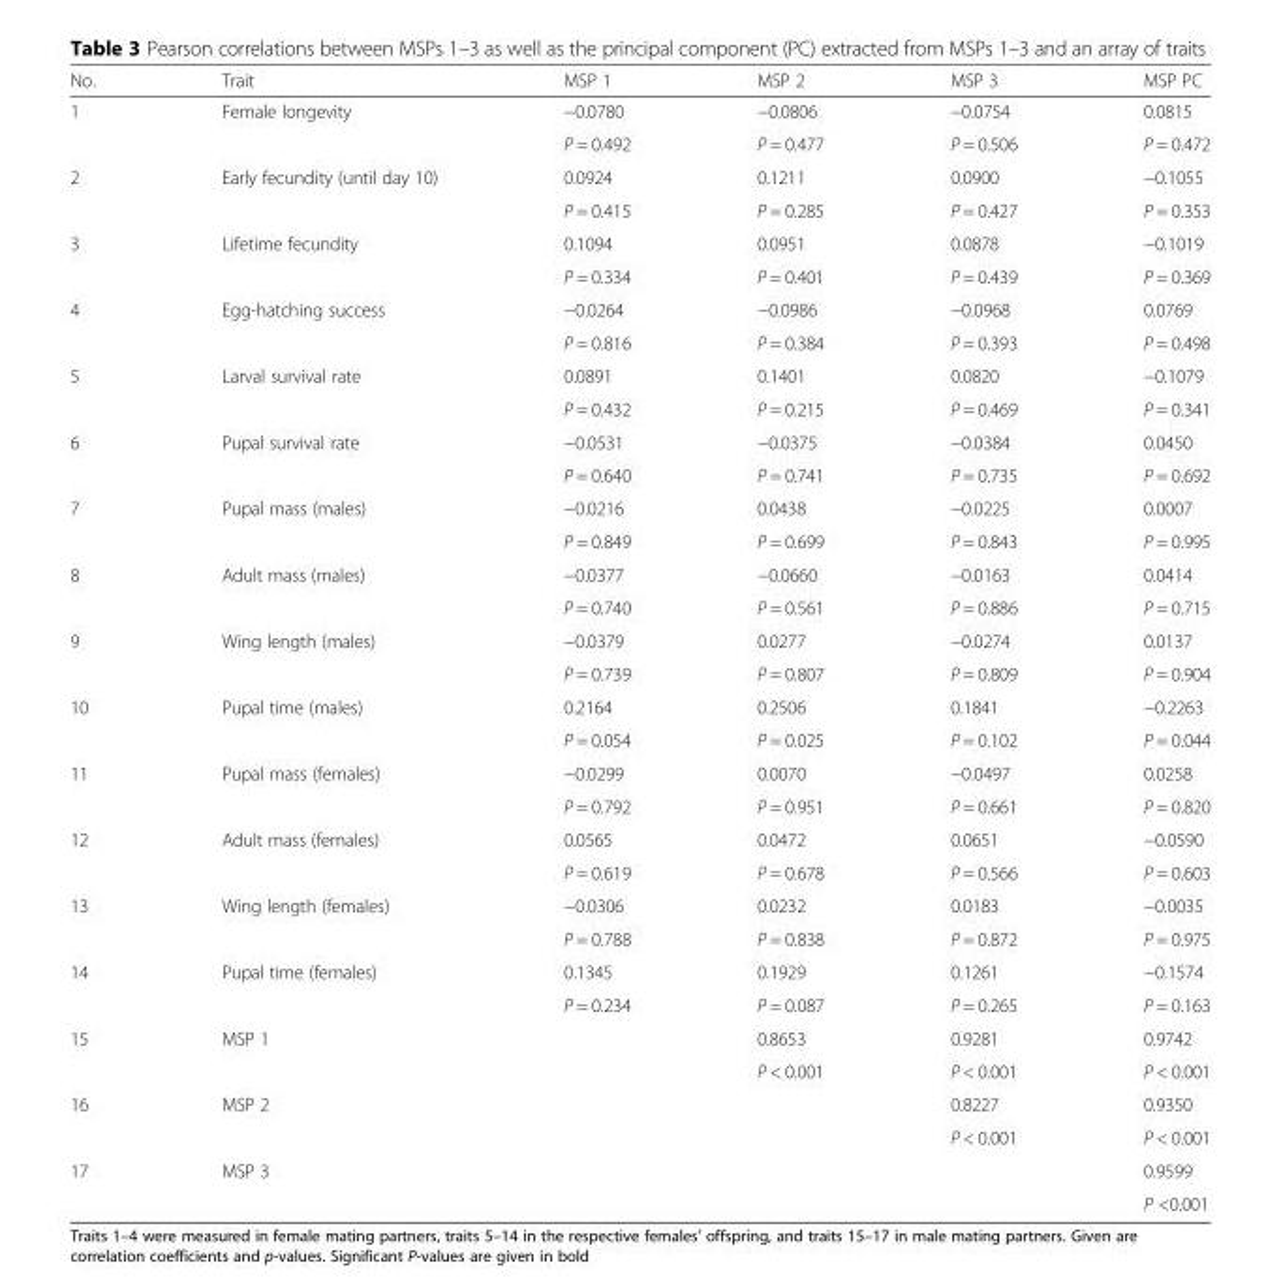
<table><thead><tr><td>No.</td><td>Trait</td><td>MSP 1</td><td>MSP 2</td><td>MSP 3</td><td>MSP PC</td></tr></thead><tbody><tr><td rowspan="2">1</td><td>Female longevity</td><td>−0.0780</td><td>−0.0806</td><td>−0.0754</td><td>0.0815</td></tr><tr><td></td><td>P = 0.492</td><td>P = 0.477</td><td>P = 0.506</td><td>P = 0.472</td></tr><tr><td rowspan="2">2</td><td>Early fecundity (until day 10)</td><td>0.0924</td><td>0.1211</td><td>0.0900</td><td>−0.1055</td></tr><tr><td></td><td>P = 0.415</td><td>P = 0.285</td><td>P = 0.427</td><td>P = 0.353</td></tr><tr><td rowspan="2">3</td><td>Lifetime fecundity</td><td>0.1094</td><td>0.0951</td><td>0.0878</td><td>−0.1019</td></tr><tr><td></td><td>P = 0.334</td><td>P = 0.401</td><td>P = 0.439</td><td>P = 0.369</td></tr><tr><td rowspan="2">4</td><td>Egg-hatching success</td><td>−0.0264</td><td>−0.0986</td><td>−0.0968</td><td>0.0769</td></tr><tr><td></td><td>P = 0.816</td><td>P = 0.384</td><td>P = 0.393</td><td>P = 0.498</td></tr><tr><td rowspan="2">5</td><td>Larval survival rate</td><td>0.0891</td><td>0.1401</td><td>0.0820</td><td>−0.1079</td></tr><tr><td></td><td>P = 0.432</td><td>P = 0.215</td><td>P = 0.469</td><td>P = 0.341</td></tr><tr><td rowspan="2">6</td><td>Pupal survival rate</td><td>−0.0531</td><td>−0.0375</td><td>−0.0384</td><td>0.0450</td></tr><tr><td></td><td>P = 0.640</td><td>P = 0.741</td><td>P = 0.735</td><td>P = 0.692</td></tr><tr><td rowspan="2">7</td><td>Pupal mass (males)</td><td>−0.0216</td><td>0.0438</td><td>−0.0225</td><td>0.0007</td></tr><tr><td></td><td>P = 0.849</td><td>P = 0.699</td><td>P = 0.843</td><td>P = 0.995</td></tr><tr><td rowspan="2">8</td><td>Adult mass (males)</td><td>−0.0377</td><td>−0.0660</td><td>−0.0163</td><td>0.0414</td></tr><tr><td></td><td>P = 0.740</td><td>P = 0.561</td><td>P = 0.886</td><td>P = 0.715</td></tr><tr><td rowspan="2">9</td><td>Wing length (males)</td><td>−0.0379</td><td>0.0277</td><td>−0.0274</td><td>0.0137</td></tr><tr><td></td><td>P = 0.739</td><td>P = 0.807</td><td>P = 0.809</td><td>P = 0.904</td></tr><tr><td rowspan="2">10</td><td>Pupal time (males)</td><td>0.2164</td><td>0.2506</td><td>0.1841</td><td>−0.2263</td></tr><tr><td></td><td>P = 0.054</td><td>P = 0.025</td><td>P = 0.102</td><td>P = 0.044</td></tr><tr><td rowspan="2">11</td><td>Pupal mass (females)</td><td>−0.0299</td><td>0.0070</td><td>−0.0497</td><td>0.0258</td></tr><tr><td></td><td>P = 0.792</td><td>P = 0.951</td><td>P = 0.661</td><td>P = 0.820</td></tr><tr><td rowspan="2">12</td><td>Adult mass (females)</td><td>0.0565</td><td>0.0472</td><td>0.0651</td><td>−0.0590</td></tr><tr><td></td><td>P = 0.619</td><td>P = 0.678</td><td>P = 0.566</td><td>P = 0.603</td></tr><tr><td rowspan="2">13</td><td>Wing length (females)</td><td>−0.0306</td><td>0.0232</td><td>0.0183</td><td>−0.0035</td></tr><tr><td></td><td>P = 0.788</td><td>P = 0.838</td><td>P = 0.872</td><td>P = 0.975</td></tr><tr><td rowspan="2">14</td><td>Pupal time (females)</td><td>0.1345</td><td>0.1929</td><td>0.1261</td><td>−0.1574</td></tr><tr><td></td><td>P = 0.234</td><td>P = 0.087</td><td>P = 0.265</td><td>P = 0.163</td></tr><tr><td rowspan="2">15</td><td>MSP 1</td><td></td><td>0.8653</td><td>0.9281</td><td>0.9742</td></tr><tr><td></td><td></td><td>P &lt; 0.001</td><td>P &lt; 0.001</td><td>P &lt; 0.001</td></tr><tr><td rowspan="2">16</td><td>MSP 2</td><td></td><td></td><td>0.8227</td><td>0.9350</td></tr><tr><td></td><td></td><td></td><td>P &lt; 0.001</td><td>P &lt; 0.001</td></tr><tr><td rowspan="2">17</td><td>MSP 3</td><td></td><td></td><td></td><td>0.9599</td></tr><tr><td></td><td></td><td></td><td></td><td>P &lt;0.001</td></tr></tbody></table>